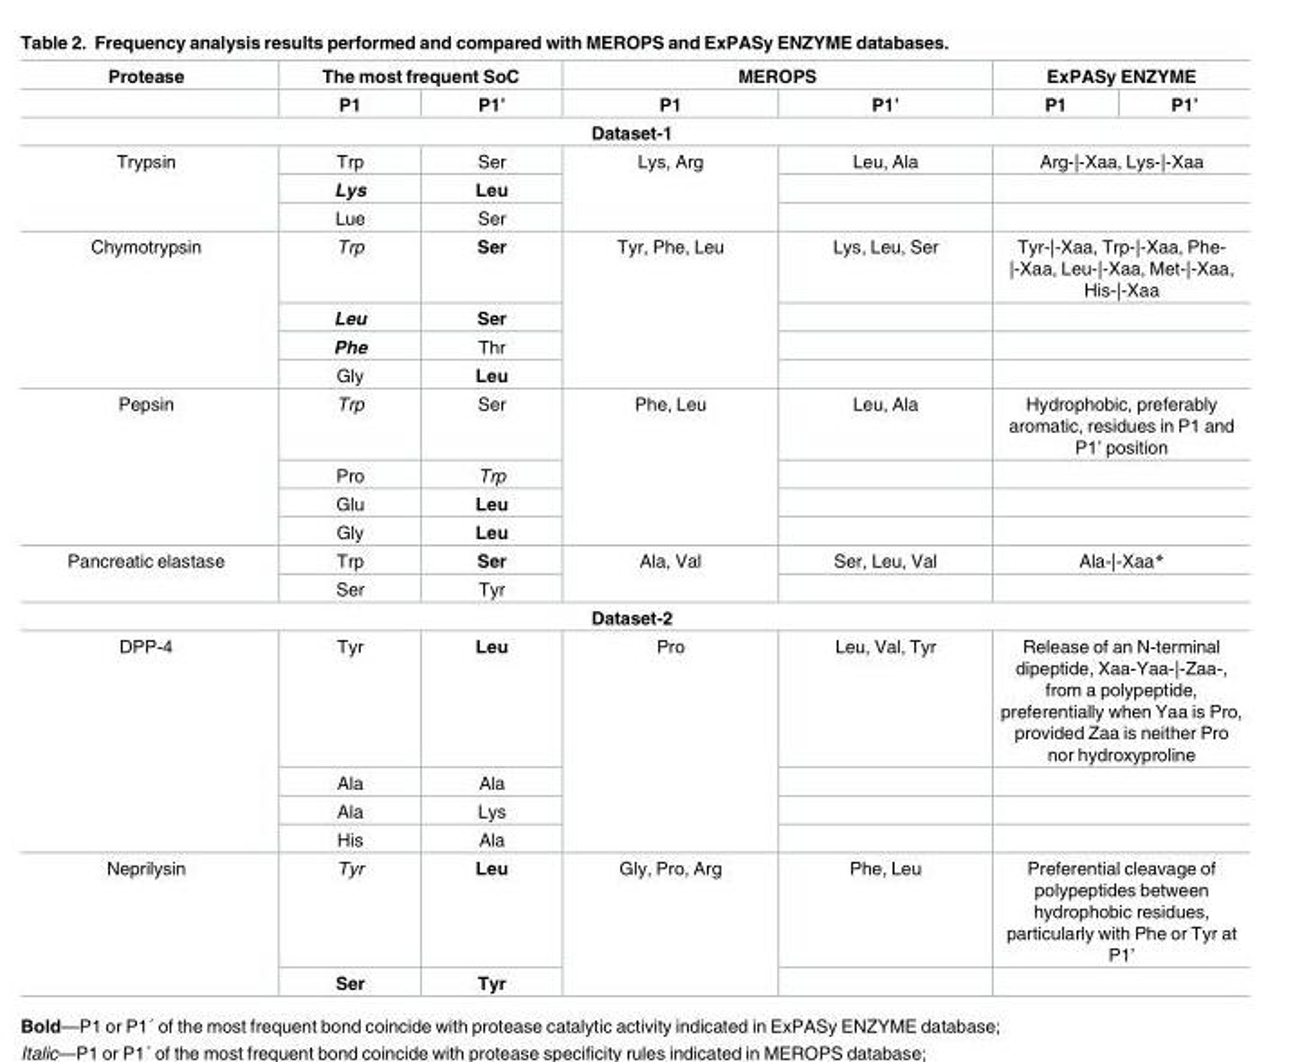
<table><thead><tr><td rowspan="2">Protease</td><td colspan="2">The most frequent SoC</td><td colspan="2">MEROPS</td><td colspan="2">ExPASy ENZYME</td></tr><tr><td>P1</td><td>P1’</td><td>P1</td><td>P1’</td><td>P1</td><td>P1’</td></tr></thead><tbody><tr><td colspan="7">Dataset-1</td></tr><tr><td rowspan="3">Trypsin</td><td>Trp</td><td>Ser</td><td rowspan="3">Lys, Arg</td><td>Leu, Ala</td><td colspan="2">Arg-|-Xaa, Lys-|-Xaa</td></tr><tr><td>Lys</td><td>Leu</td><td></td><td colspan="2"></td></tr><tr><td>Lue</td><td>Ser</td><td></td><td colspan="2"></td></tr><tr><td rowspan="4">Chymotrypsin</td><td>Trp</td><td>Ser</td><td rowspan="4">Tyr, Phe, Leu</td><td>Lys, Leu, Ser</td><td colspan="2">Tyr-|-Xaa, Trp-|-Xaa, Phe- |-Xaa, Leu-|-Xaa, Met-|-Xaa, His-|-Xaa</td></tr><tr><td>Leu</td><td>Ser</td><td></td><td colspan="2"></td></tr><tr><td>Phe</td><td>Thr</td><td></td><td colspan="2"></td></tr><tr><td>Gly</td><td>Leu</td><td></td><td colspan="2"></td></tr><tr><td rowspan="4">Pepsin</td><td>Trp</td><td>Ser</td><td rowspan="4">Phe, Leu</td><td>Leu, Ala</td><td colspan="2">Hydrophobic, preferably aromatic, residues in P1 and P1’ position</td></tr><tr><td>Pro</td><td>Trp</td><td></td><td colspan="2"></td></tr><tr><td>Glu</td><td>Leu</td><td></td><td colspan="2"></td></tr><tr><td>Gly</td><td>Leu</td><td></td><td colspan="2"></td></tr><tr><td rowspan="2">Pancreatic elastase</td><td>Trp</td><td>Ser</td><td rowspan="2">Ala, Val</td><td>Ser, Leu, Val</td><td colspan="2">Ala-|-Xaa*</td></tr><tr><td>Ser</td><td>Tyr</td><td></td><td colspan="2"></td></tr><tr><td colspan="7">Dataset-2</td></tr><tr><td rowspan="4">DPP-4</td><td>Tyr</td><td>Leu</td><td rowspan="4">Pro</td><td>Leu, Val, Tyr</td><td colspan="2">Release of an N-terminal dipeptide, Xaa-Yaa-|-Zaa-, from a polypeptide, preferentially when Yaa is Pro, provided Zaa is neither Pro nor hydroxyproline</td></tr><tr><td>Ala</td><td>Ala</td><td></td><td colspan="2"></td></tr><tr><td>Ala</td><td>Lys</td><td></td><td colspan="2"></td></tr><tr><td>His</td><td>Ala</td><td></td><td colspan="2"></td></tr><tr><td rowspan="2">Neprilysin</td><td>Tyr</td><td>Leu</td><td rowspan="2">Gly, Pro, Arg</td><td>Phe, Leu</td><td colspan="2">Preferential cleavage of polypeptides between hydrophobic residues, particularly with Phe or Tyr at P1’</td></tr><tr><td>Ser</td><td>Tyr</td><td></td><td colspan="2"></td></tr></tbody></table>